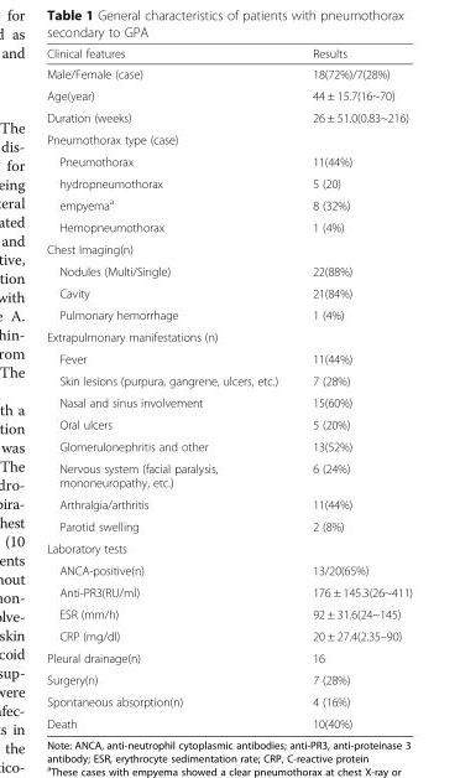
<table><thead><tr><td>Clinical features</td><td>Results</td></tr></thead><tbody><tr><td>Male/Female (case)</td><td>18(72%)/7(28%)</td></tr><tr><td>Age(year)</td><td>44 ± 15.7(16~70)</td></tr><tr><td>Duration (weeks)</td><td>26 ± 51.0(0.83~216)</td></tr><tr><td colspan="2">Pneumothorax type (case)</td></tr><tr><td>Pneumothorax</td><td>11(44%)</td></tr><tr><td>hydropneumothorax</td><td>5 (20)</td></tr><tr><td>empyema<sup>a</sup></td><td>8 (32%)</td></tr><tr><td>Hemopneumothorax</td><td>1 (4%)</td></tr><tr><td colspan="2">Chest Imaging(n)</td></tr><tr><td>Nodules (Multi/Single)</td><td>22(88%)</td></tr><tr><td>Cavity</td><td>21(84%)</td></tr><tr><td>Pulmonary hemorrhage</td><td>1 (4%)</td></tr><tr><td colspan="2">Extrapulmonary manifestations (n)</td></tr><tr><td>Fever</td><td>11(44%)</td></tr><tr><td>Skin lesions (purpura, gangrene, ulcers, etc.)</td><td>7 (28%)</td></tr><tr><td>Nasal and sinus involvement</td><td>15(60%)</td></tr><tr><td>Oral ulcers</td><td>5 (20%)</td></tr><tr><td>Glomerulonephritis and other</td><td>13(52%)</td></tr><tr><td>Nervous system (facial paralysis, mononeuropathy, etc.)</td><td>6 (24%)</td></tr><tr><td>Arthralgia/arthritis</td><td>11(44%)</td></tr><tr><td>Parotid swelling</td><td>2 (8%)</td></tr><tr><td colspan="2">Laboratory tests</td></tr><tr><td>ANCA-positive(n)</td><td>13/20(65%)</td></tr><tr><td>Anti-PR3(RU/ml)</td><td>176 ± 145.3(26~411)</td></tr><tr><td>ESR (mm/h)</td><td>92 ± 31.6(24~145)</td></tr><tr><td>CRP (mg/dl)</td><td>20 ± 27.4(2.35–90)</td></tr><tr><td>Pleural drainage(n)</td><td>16</td></tr><tr><td>Surgery(n)</td><td>7 (28%)</td></tr><tr><td>Spontaneous absorption(n)</td><td>4 (16%)</td></tr><tr><td>Death</td><td>10(40%)</td></tr></tbody></table>